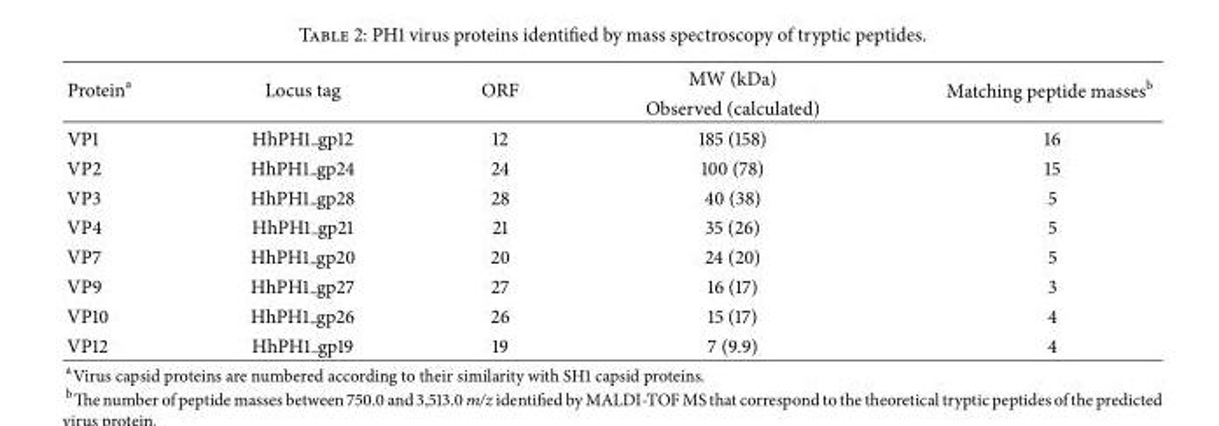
<table><thead><tr><td rowspan="2">Protein<sup>a</sup></td><td rowspan="2">Locus tag</td><td rowspan="2">ORF</td><td rowspan="2">MW (kDa) Observed (calculated)</td><td rowspan="2">Matching peptide masses<sup>b</sup></td></tr><tr></tr></thead><tbody><tr><td>VP1</td><td>HhPH1 gp12</td><td>12</td><td>185 (158)</td><td>16</td></tr><tr><td>VP2</td><td>HhPH1 gp24</td><td>24</td><td>100 (78)</td><td>15</td></tr><tr><td>VP3</td><td>HhPH1 gp28</td><td>28</td><td>40 (38)</td><td>5</td></tr><tr><td>VP4</td><td>HhPH1 gp21</td><td>21</td><td>35 (26)</td><td>5</td></tr><tr><td>VP7</td><td>HhPH1 gp20</td><td>20</td><td>24 (20)</td><td>5</td></tr><tr><td>VP9</td><td>HhPH1 gp27</td><td>27</td><td>16 (17)</td><td>3</td></tr><tr><td>VP10</td><td>HhPH1 gp26</td><td>26</td><td>15 (17)</td><td>4</td></tr><tr><td>VP12</td><td>HhPH1 gp19</td><td>19</td><td>7 (9.9)</td><td>4</td></tr></tbody></table>